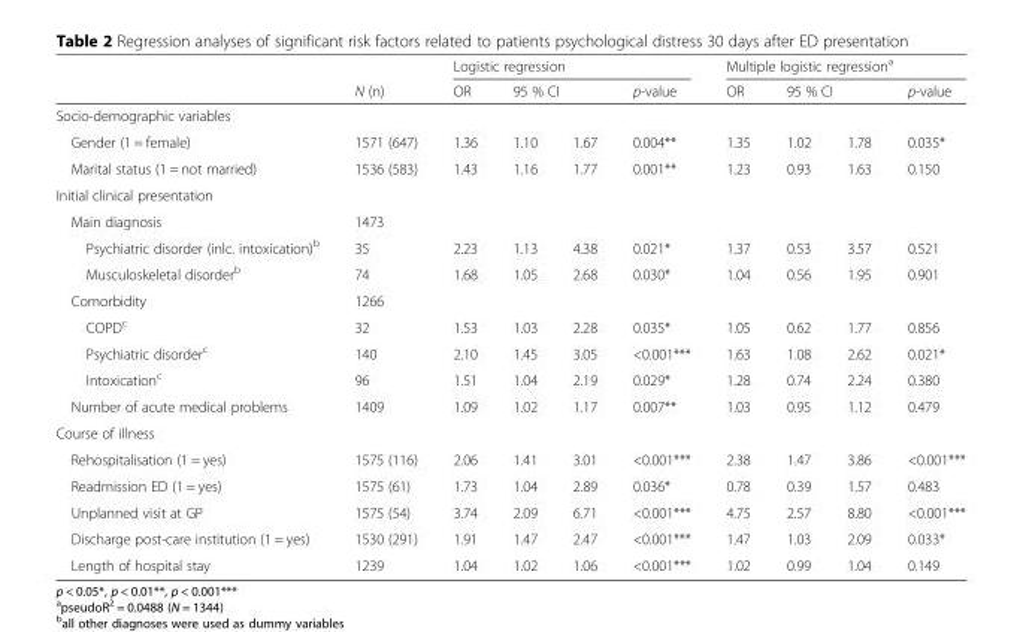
<table><thead><tr><td rowspan="2"></td><td rowspan="2">N (n)</td><td colspan="4">Logistic regression</td><td colspan="4">Multiple logistic regression<sup>a</sup></td></tr><tr><td>OR</td><td colspan="2">95 % CI</td><td>p-value</td><td>OR</td><td colspan="2">95 % CI</td><td>p-value</td></tr><tr><td colspan="10">Socio-demographic variables</td></tr><tr><td>Gender (1 = female)</td><td>1571 (647)</td><td>1.36</td><td>1.10</td><td>1.67</td><td>0.004**</td><td>1.35</td><td>1.02</td><td>1.78</td><td>0.035*</td></tr></thead><tbody><tr><td>Marital status (1 = not married)</td><td>1536 (583)</td><td>1.43</td><td>1.16</td><td>1.77</td><td>0.001**</td><td>1.23</td><td>0.93</td><td>1.63</td><td>0.150</td></tr><tr><td colspan="10">Initial clinical presentation</td></tr><tr><td>Main diagnosis</td><td>1473</td><td></td><td></td><td></td><td></td><td></td><td></td><td></td><td></td></tr><tr><td>Psychiatric disorder (inlc. intoxication)<sup>b</sup></td><td>35</td><td>2.23</td><td>1.13</td><td>4.38</td><td>0.021*</td><td>1.37</td><td>0.53</td><td>3.57</td><td>0.521</td></tr><tr><td>Musculoskeletal disorder<sup>b</sup></td><td>74</td><td>1.68</td><td>1.05</td><td>2.68</td><td>0.030*</td><td>1.04</td><td>0.56</td><td>1.95</td><td>0.901</td></tr><tr><td>Comorbidity</td><td>1266</td><td></td><td></td><td></td><td></td><td></td><td></td><td></td><td></td></tr><tr><td>COPD<sup>c</sup></td><td>32</td><td>1.53</td><td>1.03</td><td>2.28</td><td>0.035*</td><td>1.05</td><td>0.62</td><td>1.77</td><td>0.856</td></tr><tr><td>Psychiatric disorder<sup>c</sup></td><td>140</td><td>2.10</td><td>1.45</td><td>3.05</td><td>&lt;0.001***</td><td>1.63</td><td>1.08</td><td>2.62</td><td>0.021*</td></tr><tr><td>Intoxication<sup>c</sup></td><td>96</td><td>1.51</td><td>1.04</td><td>2.19</td><td>0.029*</td><td>1.28</td><td>0.74</td><td>2.24</td><td>0.380</td></tr><tr><td>Number of acute medical problems</td><td>1409</td><td>1.09</td><td>1.02</td><td>1.17</td><td>0.007**</td><td>1.03</td><td>0.95</td><td>1.12</td><td>0.479</td></tr><tr><td colspan="10">Course of illness</td></tr><tr><td>Rehospitalisation (1 = yes)</td><td>1575 (116)</td><td>2.06</td><td>1.41</td><td>3.01</td><td>&lt;0.001***</td><td>2.38</td><td>1.47</td><td>3.86</td><td>&lt;0.001***</td></tr><tr><td>Readmission ED (1 = yes)</td><td>1575 (61)</td><td>1.73</td><td>1.04</td><td>2.89</td><td>0.036*</td><td>0.78</td><td>0.39</td><td>1.57</td><td>0.483</td></tr><tr><td>Unplanned visit at GP</td><td>1575 (54)</td><td>3.74</td><td>2.09</td><td>6.71</td><td>&lt;0.001***</td><td>4.75</td><td>2.57</td><td>8.80</td><td>&lt;0.001***</td></tr><tr><td>Discharge post-care institution (1 = yes)</td><td>1530 (291)</td><td>1.91</td><td>1.47</td><td>2.47</td><td>&lt;0.001***</td><td>1.47</td><td>1.03</td><td>2.09</td><td>0.033*</td></tr><tr><td>Length of hospital stay</td><td>1239</td><td>1.04</td><td>1.02</td><td>1.06</td><td>&lt;0.001***</td><td>1.02</td><td>0.99</td><td>1.04</td><td>0.149</td></tr></tbody></table>